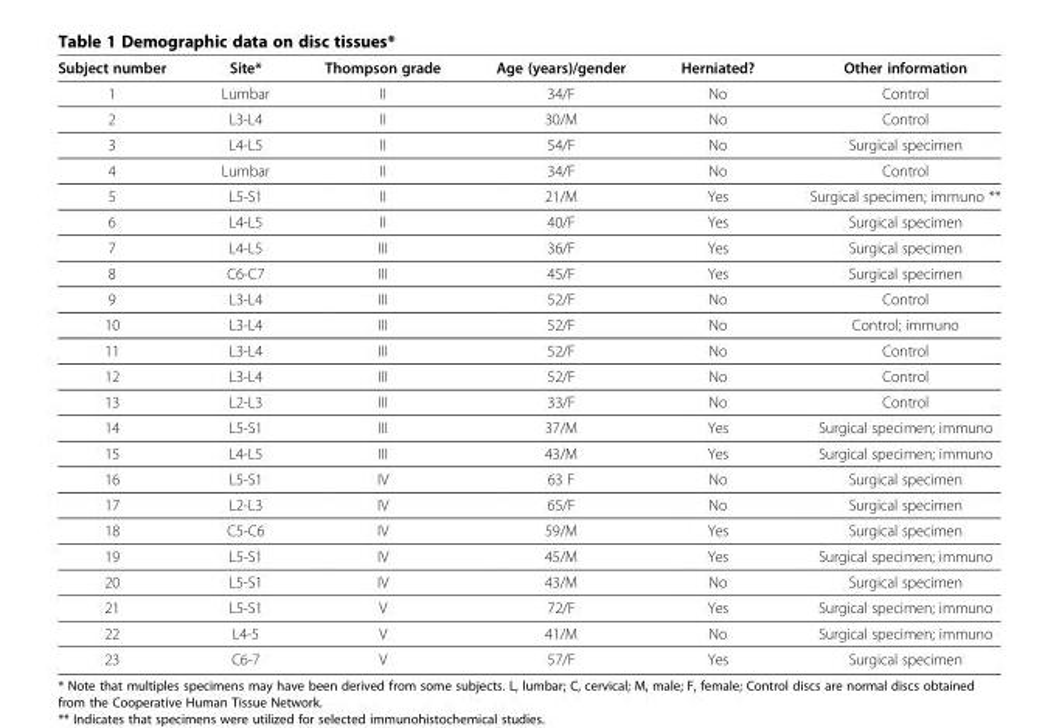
<table><thead><tr><td>Subject number</td><td>Site*</td><td>Thompson grade</td><td>Age (years)/gender</td><td>Herniated?</td><td>Other information</td></tr></thead><tbody><tr><td>1</td><td>Lumbar</td><td>II</td><td>34/F</td><td>No</td><td>Control</td></tr><tr><td>2</td><td>L3-L4</td><td>II</td><td>30/M</td><td>No</td><td>Control</td></tr><tr><td>3</td><td>L4-L5</td><td>II</td><td>54/F</td><td>No</td><td>Surgical specimen</td></tr><tr><td>4</td><td>Lumbar</td><td>II</td><td>34/F</td><td>No</td><td>Control</td></tr><tr><td>5</td><td>L5-S1</td><td>II</td><td>21/M</td><td>Yes</td><td>Surgical specimen; immuno **</td></tr><tr><td>6</td><td>L4-L5</td><td>II</td><td>40/F</td><td>Yes</td><td>Surgical specimen</td></tr><tr><td>7</td><td>L4-L5</td><td>III</td><td>36/F</td><td>Yes</td><td>Surgical specimen</td></tr><tr><td>8</td><td>C6-C7</td><td>III</td><td>45/F</td><td>Yes</td><td>Surgical specimen</td></tr><tr><td>9</td><td>L3-L4</td><td>III</td><td>52/F</td><td>No</td><td>Control</td></tr><tr><td>10</td><td>L3-L4</td><td>III</td><td>52/F</td><td>No</td><td>Control; immuno</td></tr><tr><td>11</td><td>L3-L4</td><td>III</td><td>52/F</td><td>No</td><td>Control</td></tr><tr><td>12</td><td>L3-L4</td><td>III</td><td>52/F</td><td>No</td><td>Control</td></tr><tr><td>13</td><td>L2-L3</td><td>III</td><td>33/F</td><td>No</td><td>Control</td></tr><tr><td>14</td><td>L5-S1</td><td>III</td><td>37/M</td><td>Yes</td><td>Surgical specimen; immuno</td></tr><tr><td>15</td><td>L4-L5</td><td>III</td><td>43/M</td><td>Yes</td><td>Surgical specimen; immuno</td></tr><tr><td>16</td><td>L5-S1</td><td>IV</td><td>63 F</td><td>No</td><td>Surgical specimen</td></tr><tr><td>17</td><td>L2-L3</td><td>IV</td><td>65/F</td><td>No</td><td>Surgical specimen</td></tr><tr><td>18</td><td>C5-C6</td><td>IV</td><td>59/M</td><td>Yes</td><td>Surgical specimen</td></tr><tr><td>19</td><td>L5-S1</td><td>IV</td><td>45/M</td><td>Yes</td><td>Surgical specimen; immuno</td></tr><tr><td>20</td><td>L5-S1</td><td>IV</td><td>43/M</td><td>No</td><td>Surgical specimen</td></tr><tr><td>21</td><td>L5-S1</td><td>V</td><td>72/F</td><td>Yes</td><td>Surgical specimen; immuno</td></tr><tr><td>22</td><td>L4-5</td><td>V</td><td>41/M</td><td>No</td><td>Surgical specimen; immuno</td></tr><tr><td>23</td><td>C6-7</td><td>V</td><td>57/F</td><td>Yes</td><td>Surgical specimen</td></tr></tbody></table>